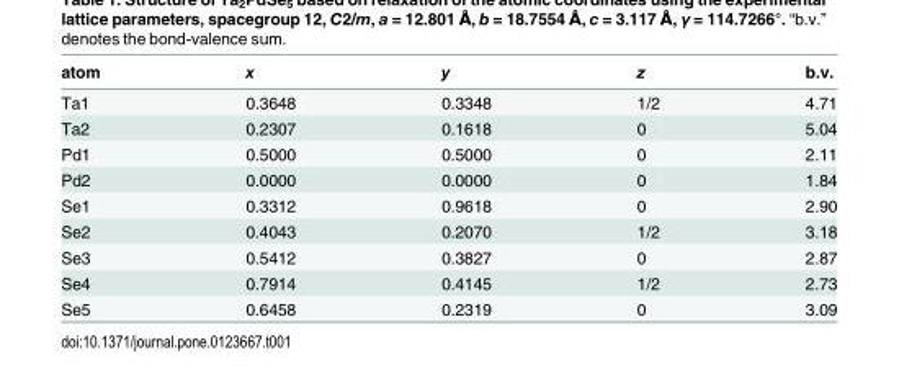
<table><thead><tr><td>atom</td><td>x</td><td>y</td><td>z</td><td>b.v.</td></tr></thead><tbody><tr><td>Ta1</td><td>0.3648</td><td>0.3348</td><td>1/2</td><td>4.71</td></tr><tr><td>Ta2</td><td>0.2307</td><td>0.1618</td><td>0</td><td>5.04</td></tr><tr><td>Pd1</td><td>0.5000</td><td>0.5000</td><td>0</td><td>2.11</td></tr><tr><td>Pd2</td><td>0.0000</td><td>0.0000</td><td>0</td><td>1.84</td></tr><tr><td>Se1</td><td>0.3312</td><td>0.9618</td><td>0</td><td>2.90</td></tr><tr><td>Se2</td><td>0.4043</td><td>0.2070</td><td>1/2</td><td>3.18</td></tr><tr><td>Se3</td><td>0.5412</td><td>0.3827</td><td>0</td><td>2.87</td></tr><tr><td>Se4</td><td>0.7914</td><td>0.4145</td><td>1/2</td><td>2.73</td></tr><tr><td>Se5</td><td>0.6458</td><td>0.2319</td><td>0</td><td>3.09</td></tr></tbody></table>